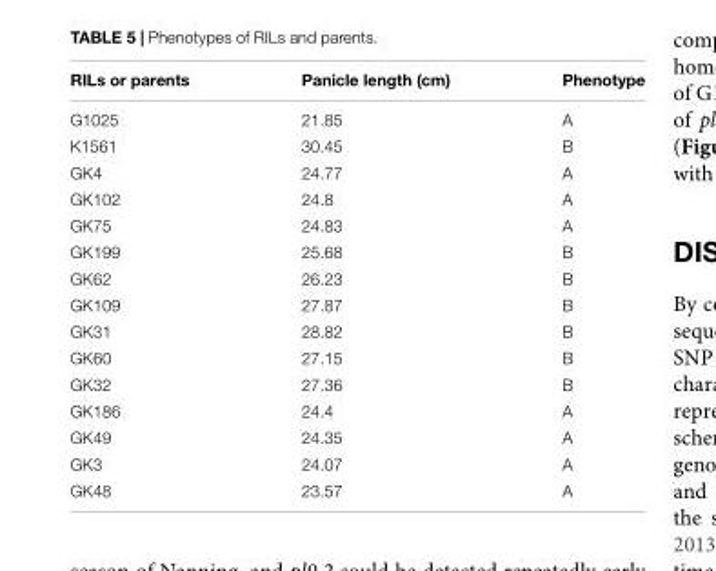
<table><thead><tr><td>RILs or parents</td><td>Panicle length (cm)</td><td>Phenotype</td></tr></thead><tbody><tr><td>G1025</td><td>21.85</td><td>A</td></tr><tr><td>K1561</td><td>30.45</td><td>B</td></tr><tr><td>GK4</td><td>24.77</td><td>A</td></tr><tr><td>GK102</td><td>24.8</td><td>A</td></tr><tr><td>GK75</td><td>24.83</td><td>A</td></tr><tr><td>GK199</td><td>25.68</td><td>B</td></tr><tr><td>GK62</td><td>26.23</td><td>B</td></tr><tr><td>GK109</td><td>27.87</td><td>B</td></tr><tr><td>GK31</td><td>28.82</td><td>B</td></tr><tr><td>GK60</td><td>27.15</td><td>B</td></tr><tr><td>GK32</td><td>27.36</td><td>B</td></tr><tr><td>GK186</td><td>24.4</td><td>A</td></tr><tr><td>GK49</td><td>24.35</td><td>A</td></tr><tr><td>GK3</td><td>24.07</td><td>A</td></tr><tr><td>GK48</td><td>23.57</td><td>A</td></tr></tbody></table>